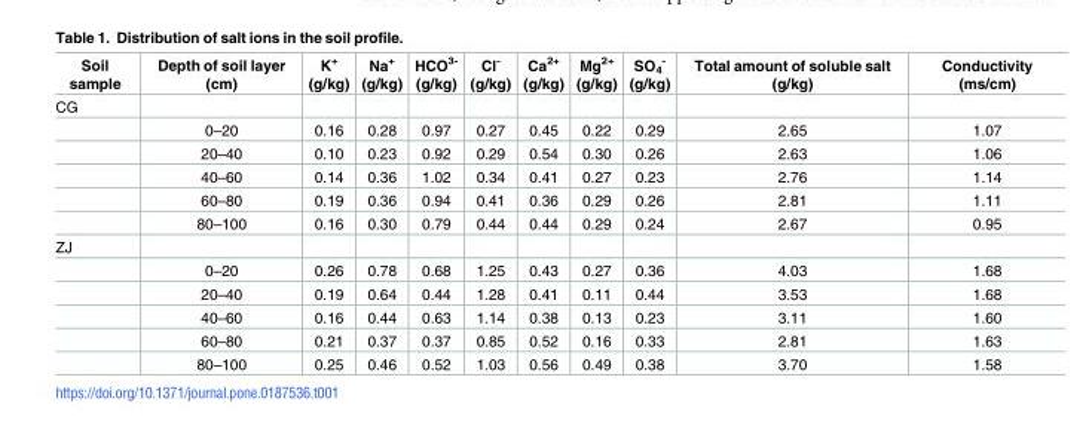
<table><thead><tr><td>Soil sample</td><td>Depth of soil layer (cm)</td><td>K<sup>+</sup> (g/kg)</td><td>Na<sup>+</sup> (g/kg)</td><td>HCO<sup>3-</sup> (g/kg)</td><td>Cl<sup>-</sup> (g/kg)</td><td>Ca<sup>2+</sup> (g/kg)</td><td>Mg<sup>2+</sup> (g/kg)</td><td>SO<sub>4</sub> <sup>-</sup> (g/kg)</td><td>Total amount of soluble salt (g/kg)</td><td>Conductivity (ms/cm)</td></tr></thead><tbody><tr><td colspan="11">CG</td></tr><tr><td></td><td>0–20</td><td>0.16</td><td>0.28</td><td>0.97</td><td>0.27</td><td>0.45</td><td>0.22</td><td>0.29</td><td>2.65</td><td>1.07</td></tr><tr><td></td><td>20–40</td><td>0.10</td><td>0.23</td><td>0.92</td><td>0.29</td><td>0.54</td><td>0.30</td><td>0.26</td><td>2.63</td><td>1.06</td></tr><tr><td></td><td>40–60</td><td>0.14</td><td>0.36</td><td>1.02</td><td>0.34</td><td>0.41</td><td>0.27</td><td>0.23</td><td>2.76</td><td>1.14</td></tr><tr><td></td><td>60–80</td><td>0.19</td><td>0.36</td><td>0.94</td><td>0.41</td><td>0.36</td><td>0.29</td><td>0.26</td><td>2.81</td><td>1.11</td></tr><tr><td></td><td>80–100</td><td>0.16</td><td>0.30</td><td>0.79</td><td>0.44</td><td>0.44</td><td>0.29</td><td>0.24</td><td>2.67</td><td>0.95</td></tr><tr><td colspan="11">ZJ</td></tr><tr><td></td><td>0–20</td><td>0.26</td><td>0.78</td><td>0.68</td><td>1.25</td><td>0.43</td><td>0.27</td><td>0.36</td><td>4.03</td><td>1.68</td></tr><tr><td></td><td>20–40</td><td>0.19</td><td>0.64</td><td>0.44</td><td>1.28</td><td>0.41</td><td>0.11</td><td>0.44</td><td>3.53</td><td>1.68</td></tr><tr><td></td><td>40–60</td><td>0.16</td><td>0.44</td><td>0.63</td><td>1.14</td><td>0.38</td><td>0.13</td><td>0.23</td><td>3.11</td><td>1.60</td></tr><tr><td></td><td>60–80</td><td>0.21</td><td>0.37</td><td>0.37</td><td>0.85</td><td>0.52</td><td>0.16</td><td>0.33</td><td>2.81</td><td>1.63</td></tr><tr><td></td><td>80–100</td><td>0.25</td><td>0.46</td><td>0.52</td><td>1.03</td><td>0.56</td><td>0.49</td><td>0.38</td><td>3.70</td><td>1.58</td></tr></tbody></table>